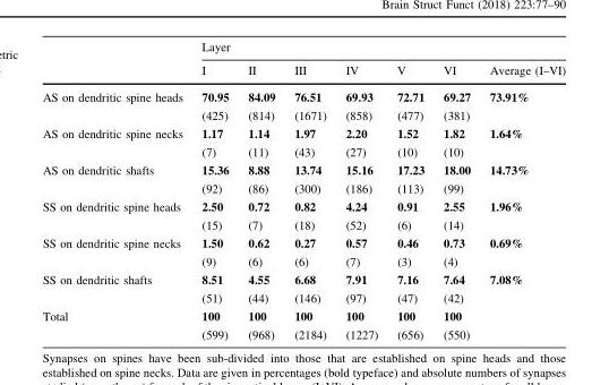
<table><thead><tr><td rowspan="2"></td><td colspan="7">Layer</td></tr><tr><td>I</td><td>II</td><td>III</td><td>IV</td><td>V</td><td>VI</td><td>Average (I–VI)</td></tr></thead><tbody><tr><td rowspan="2">AS on dendritic spine heads</td><td>70.95</td><td>84.09</td><td>76.51</td><td>69.93</td><td>72.71</td><td>69.27</td><td rowspan="2">73.91%</td></tr><tr><td>(425)</td><td>(814)</td><td>(1671)</td><td>(858)</td><td>(477)</td><td>(381)</td></tr><tr><td rowspan="2">AS on dendritic spine necks</td><td>1.17</td><td>1.14</td><td>1.97</td><td>2.20</td><td>1.52</td><td>1.82</td><td rowspan="2">1.64%</td></tr><tr><td>(7)</td><td>(11)</td><td>(43)</td><td>(27)</td><td>(10)</td><td>(10)</td></tr><tr><td rowspan="2">AS on dendritic shafts</td><td>15.36</td><td>8.88</td><td>13.74</td><td>15.16</td><td>17.23</td><td>18.00</td><td rowspan="2">14.73%</td></tr><tr><td>(92)</td><td>(86)</td><td>(300)</td><td>(186)</td><td>(113)</td><td>(99)</td></tr><tr><td rowspan="2">SS on dendritic spine heads</td><td>2.50</td><td>0.72</td><td>0.82</td><td>4.24</td><td>0.91</td><td>2.55</td><td rowspan="2">1.96%</td></tr><tr><td>(15)</td><td>(7)</td><td>(18)</td><td>(52)</td><td>(6)</td><td>(14)</td></tr><tr><td rowspan="2">SS on dendritic spine necks</td><td>1.50</td><td>0.62</td><td>0.27</td><td>0.57</td><td>0.46</td><td>0.73</td><td rowspan="2">0.69%</td></tr><tr><td>(9)</td><td>(6)</td><td>(6)</td><td>(7)</td><td>(3)</td><td>(4)</td></tr><tr><td rowspan="2">SS on dendritic shafts</td><td>8.51</td><td>4.55</td><td>6.68</td><td>7.91</td><td>7.16</td><td>7.64</td><td rowspan="2">7.08%</td></tr><tr><td>(51)</td><td>(44)</td><td>(146)</td><td>(97)</td><td>(47)</td><td>(42)</td></tr><tr><td rowspan="2">Total</td><td>100</td><td>100</td><td>100</td><td>100</td><td>100</td><td>100</td><td rowspan="2"></td></tr><tr><td>(599)</td><td>(968)</td><td>(2184)</td><td>(1227)</td><td>(656)</td><td>(550)</td></tr></tbody></table>